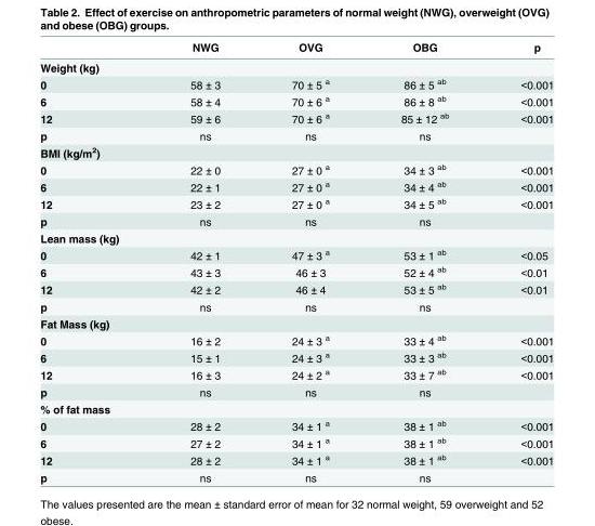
<table><thead><tr><td></td><td>NWG</td><td>OVG</td><td>OBG</td><td>p</td></tr></thead><tbody><tr><td colspan="5">Weight (kg)</td></tr><tr><td>0</td><td>58 ± 3</td><td>70 ± 5 <sup>a</sup></td><td>86 ± 5 <sup>ab</sup></td><td>&lt;0.001</td></tr><tr><td>6</td><td>58 ± 4</td><td>70 ± 6 <sup>a</sup></td><td>86 ± 8 <sup>ab</sup></td><td>&lt;0.001</td></tr><tr><td>12</td><td>59 ± 6</td><td>70 ± 6 <sup>a</sup></td><td>85 ± 12 <sup>ab</sup></td><td>&lt;0.001</td></tr><tr><td>p</td><td>ns</td><td>ns</td><td>ns</td><td></td></tr><tr><td colspan="5">BMI (kg/m<sup>2</sup>)</td></tr><tr><td>0</td><td>22 ± 0</td><td>27 ± 0 <sup>a</sup></td><td>34 ± 3 <sup>ab</sup></td><td>&lt;0.001</td></tr><tr><td>6</td><td>22 ± 1</td><td>27 ± 0 <sup>a</sup></td><td>34 ± 4 <sup>ab</sup></td><td>&lt;0.001</td></tr><tr><td>12</td><td>23 ± 2</td><td>27 ± 0 <sup>a</sup></td><td>34 ± 5 <sup>ab</sup></td><td>&lt;0.001</td></tr><tr><td>p</td><td>ns</td><td>ns</td><td>ns</td><td></td></tr><tr><td colspan="5">Lean mass (kg)</td></tr><tr><td>0</td><td>42 ± 1</td><td>47 ± 3 <sup>a</sup></td><td>53 ± 1 <sup>ab</sup></td><td>&lt;0.05</td></tr><tr><td>6</td><td>43 ± 3</td><td>46 ± 3</td><td>52 ± 4 <sup>ab</sup></td><td>&lt;0.01</td></tr><tr><td>12</td><td>42 ± 2</td><td>46 ± 4</td><td>53 ± 5 <sup>ab</sup></td><td>&lt;0.01</td></tr><tr><td>p</td><td>ns</td><td>ns</td><td>ns</td><td></td></tr><tr><td colspan="5">Fat Mass (kg)</td></tr><tr><td>0</td><td>16 ± 2</td><td>24 ± 3 <sup>a</sup></td><td>33 ± 4 <sup>ab</sup></td><td>&lt;0.001</td></tr><tr><td>6</td><td>15 ± 1</td><td>24 ± 3 <sup>a</sup></td><td>33 ± 3 <sup>ab</sup></td><td>&lt;0.001</td></tr><tr><td>12</td><td>16 ± 3</td><td>24 ± 2 <sup>a</sup></td><td>33 ± 7 <sup>ab</sup></td><td>&lt;0.001</td></tr><tr><td>p</td><td>ns</td><td>ns</td><td>ns</td><td></td></tr><tr><td colspan="5">% of fat mass</td></tr><tr><td>0</td><td>28 ± 2</td><td>34 ± 1 <sup>a</sup></td><td>38 ± 1 <sup>ab</sup></td><td>&lt;0.001</td></tr><tr><td>6</td><td>27 ± 2</td><td>34 ± 1 <sup>a</sup></td><td>38 ± 1 <sup>ab</sup></td><td>&lt;0.001</td></tr><tr><td>12</td><td>28 ± 2</td><td>34 ± 1 <sup>a</sup></td><td>38 ± 1 <sup>ab</sup></td><td>&lt;0.001</td></tr><tr><td>p</td><td>ns</td><td>ns</td><td>ns</td><td></td></tr></tbody></table>